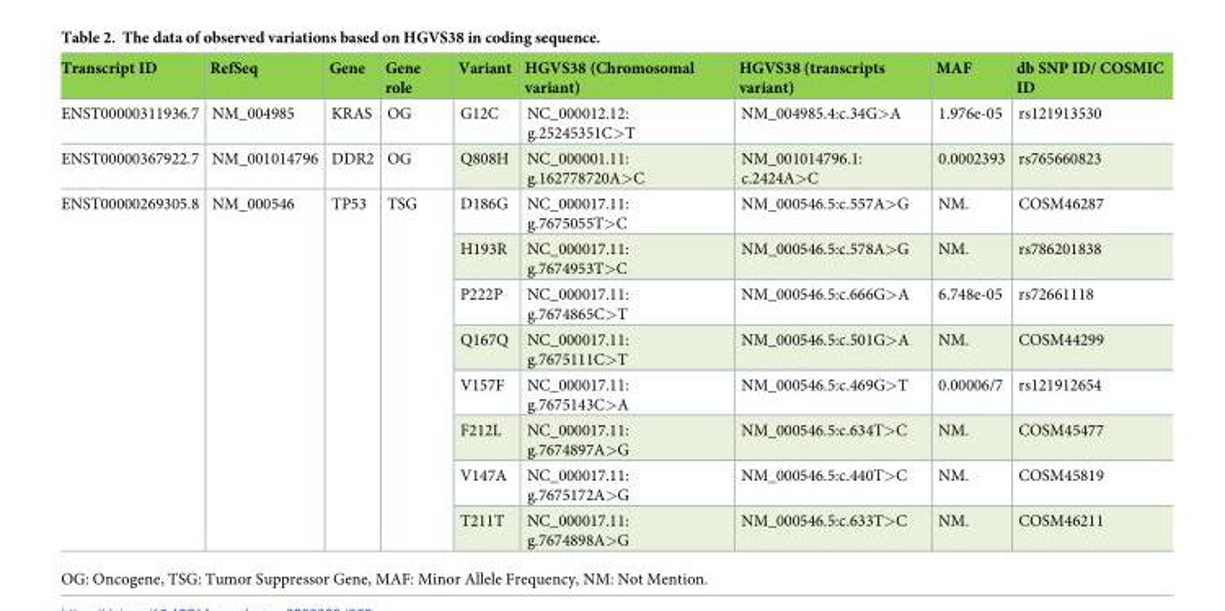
<table><thead><tr><td>Transcript ID</td><td>RefSeq</td><td>Gene</td><td>Gene role</td><td>Variant</td><td>HGVS38 (Chromosomal variant)</td><td>HGVS38 (transcripts variant)</td><td>MAF</td><td>db SNP ID/ COSMIC ID</td></tr></thead><tbody><tr><td>ENST00000311936.7</td><td>NM_004985</td><td>KRAS</td><td>OG</td><td>G12C</td><td>NC_000012.12: g.25245351C&gt;T</td><td>NM_004985.4:c.34G&gt;A</td><td>1.976e-05</td><td>rs121913530</td></tr><tr><td>ENST00000367922.7</td><td>NM_001014796</td><td>DDR2</td><td>OG</td><td>Q808H</td><td>NC_000001.11: g.162778720A&gt;C</td><td>NM_001014796.1: c.2424A&gt;C</td><td>0.0002393</td><td>rs765660823</td></tr><tr><td rowspan="8">ENST00000269305.8</td><td rowspan="8">NM_000546</td><td rowspan="8">TP53</td><td rowspan="8">TSG</td><td>D186G</td><td>NC_000017.11: g.7675055T&gt;C</td><td>NM_000546.5:c.557A&gt;G</td><td>NM.</td><td>COSM46287</td></tr><tr><td>H193R</td><td>NC_000017.11: g.7674953T&gt;C</td><td>NM_000546.5:c.578A&gt;G</td><td>NM.</td><td>rs786201838</td></tr><tr><td>P222P</td><td>NC_000017.11: g.7674865C&gt;T</td><td>NM_000546.5:c.666G&gt;A</td><td>6.748e-05</td><td>rs72661118</td></tr><tr><td>Q167Q</td><td>NC_000017.11: g.7675111C&gt;T</td><td>NM_000546.5:c.501G&gt;A</td><td>NM.</td><td>COSM44299</td></tr><tr><td>V157F</td><td>NC_000017.11: g.7675143C&gt;A</td><td>NM_000546.5:c.469G&gt;T</td><td>0.00006/7</td><td>rs121912654</td></tr><tr><td>F212L</td><td>NC_000017.11: g.7674897A&gt;G</td><td>NM_000546.5:c.634T&gt;C</td><td>NM.</td><td>COSM45477</td></tr><tr><td>V147A</td><td>NC_000017.11: g.7675172A&gt;G</td><td>NM_000546.5:c.440T&gt;C</td><td>NM.</td><td>COSM45819</td></tr><tr><td>T211T</td><td>NC_000017.11: g.7674898A&gt;G</td><td>NM_000546.5:c.633T&gt;C</td><td>NM.</td><td>COSM46211</td></tr></tbody></table>